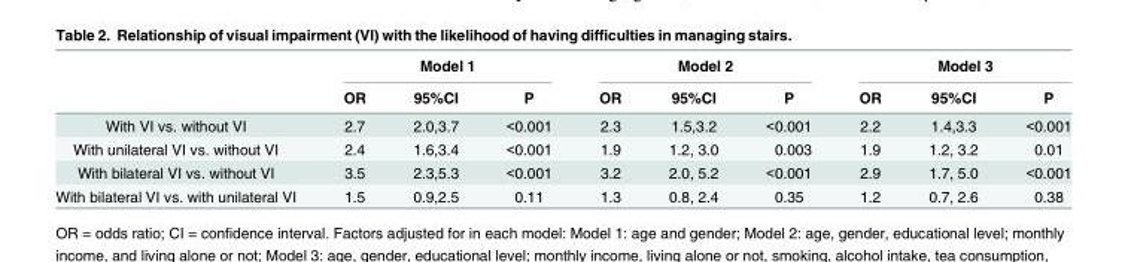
<table><thead><tr><td rowspan="2"></td><td colspan="3">Model 1</td><td colspan="3">Model 2</td><td colspan="3">Model 3</td></tr><tr><td>OR</td><td>95%CI</td><td>P</td><td>OR</td><td>95%CI</td><td>P</td><td>OR</td><td>95%CI</td><td>P</td></tr></thead><tbody><tr><td>With VI vs. without VI</td><td>2.7</td><td>2.0,3.7</td><td>&lt;0.001</td><td>2.3</td><td>1.5,3.2</td><td>&lt;0.001</td><td>2.2</td><td>1.4,3.3</td><td>&lt;0.001</td></tr><tr><td>With unilateral VI vs. without VI</td><td>2.4</td><td>1.6,3.4</td><td>&lt;0.001</td><td>1.9</td><td>1.2, 3.0</td><td>0.003</td><td>1.9</td><td>1.2, 3.2</td><td>0.01</td></tr><tr><td>With bilateral VI vs. without VI</td><td>3.5</td><td>2.3,5.3</td><td>&lt;0.001</td><td>3.2</td><td>2.0, 5.2</td><td>&lt;0.001</td><td>2.9</td><td>1.7, 5.0</td><td>&lt;0.001</td></tr><tr><td>With bilateral VI vs. with unilateral VI</td><td>1.5</td><td>0.9,2.5</td><td>0.11</td><td>1.3</td><td>0.8, 2.4</td><td>0.35</td><td>1.2</td><td>0.7, 2.6</td><td>0.38</td></tr></tbody></table>